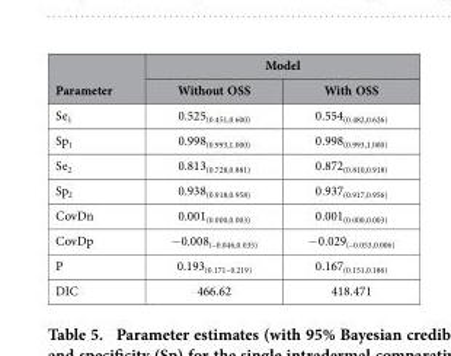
<table><thead><tr><td rowspan="2">Parameter</td><td colspan="2">Model</td></tr><tr><td>Without OSS</td><td>With OSS</td></tr></thead><tbody><tr><td>Se<sub>1</sub></td><td>0.525<sub>(0.451,0.600)</sub></td><td>0.554<sub>(0.482,0.626)</sub></td></tr><tr><td>Sp<sub>1</sub></td><td>0.998<sub>(0.993,1.000)</sub></td><td>0.998<sub>(0.993,1.000)</sub></td></tr><tr><td>Se<sub>2</sub></td><td>0.813<sub>(0.728,0.881)</sub></td><td>0.872<sub>(0.810,0.918)</sub></td></tr><tr><td>Sp<sub>2</sub></td><td>0.938<sub>(0.918,0.958)</sub></td><td>0.937<sub>(0.917,0.956)</sub></td></tr><tr><td>CovDn</td><td>0.001<sub>(0.000,0.003)</sub></td><td>0.001<sub>(0.000,0.003)</sub></td></tr><tr><td>CovDp</td><td><sub>−</sub>0.008<sub>(–0.046,0.035)</sub></td><td><sub>−</sub>0.029<sub>(–0.053,0.006)</sub></td></tr><tr><td>P</td><td>0.193<sub>(0.171–0.219)</sub></td><td>0.167<sub>(0.151,0.186)</sub></td></tr><tr><td>DIC</td><td>466.62</td><td>418.471</td></tr></tbody></table>